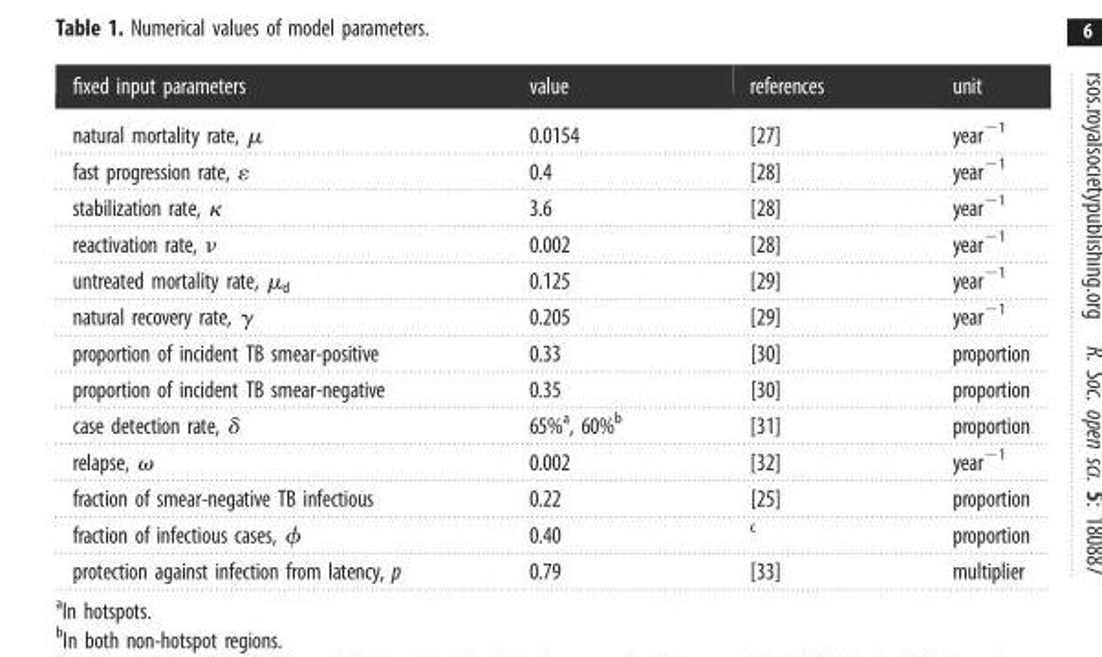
<table><thead><tr><td>fixed input parameters</td><td>value</td><td>references</td><td>unit</td></tr></thead><tbody><tr><td>natural mortality rate, μ</td><td>0.0154</td><td>[27]</td><td>year<sup>−1</sup></td></tr><tr><td>fast progression rate, 1</td><td>0.4</td><td>[28]</td><td>year<sup>−1</sup></td></tr><tr><td>stabilization rate, κ</td><td>3.6</td><td>[28]</td><td>year<sup>−1</sup></td></tr><tr><td>reactivation rate, ν</td><td>0.002</td><td>[28]</td><td>year<sup>−1</sup></td></tr><tr><td>untreated mortality rate, μ<sub>d</sub></td><td>0.125</td><td>[29]</td><td>year<sup>−1</sup></td></tr><tr><td>natural recovery rate, γ</td><td>0.205</td><td>[29]</td><td>year<sup>−1</sup></td></tr><tr><td>proportion of incident TB smear-positive</td><td>0.33</td><td>[30]</td><td>proportion</td></tr><tr><td>proportion of incident TB smear-negative</td><td>0.35</td><td>[30]</td><td>proportion</td></tr><tr><td>case detection rate, δ</td><td>65%<sup>a</sup>, 60%<sup>b</sup></td><td>[31]</td><td>proportion</td></tr><tr><td>relapse, ω</td><td>0.002</td><td>[32]</td><td>year<sup>−1</sup></td></tr><tr><td>fraction of smear-negative TB infectious</td><td>0.22</td><td>[25]</td><td>proportion</td></tr><tr><td>fraction of infectious cases, ϕ</td><td>0.40</td><td><sup>c</sup></td><td>proportion</td></tr><tr><td>protection against infection from latency, p</td><td>0.79</td><td>[33]</td><td>multiplier</td></tr></tbody></table>